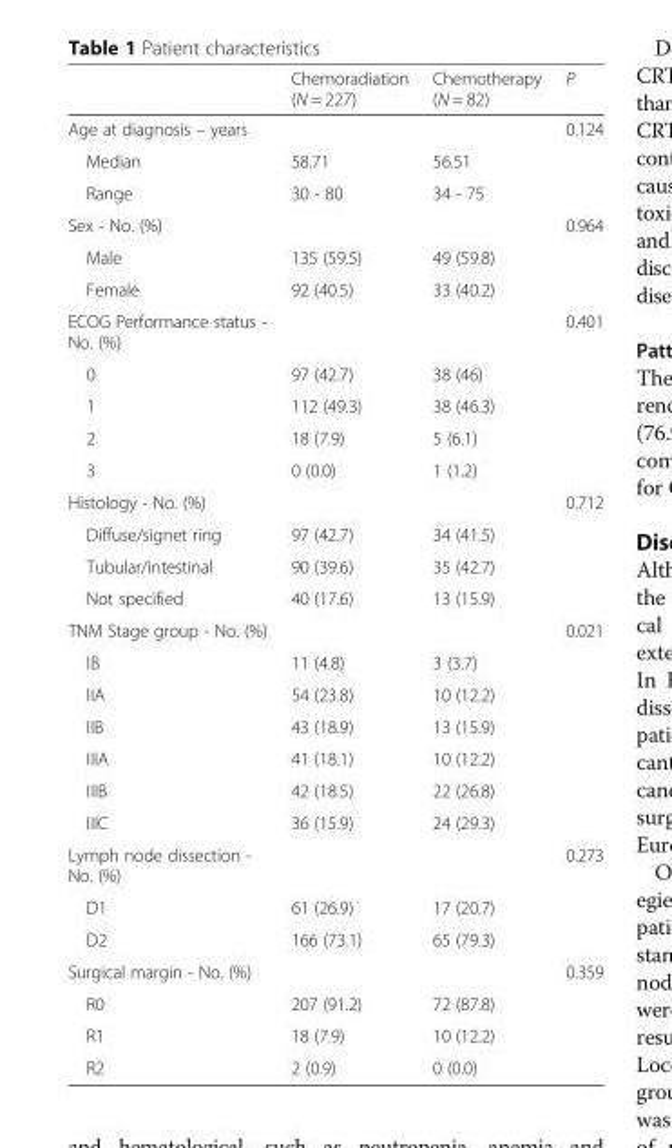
<table><thead><tr><td></td><td>Chemoradiation (N = 227)</td><td>Chemotherapy (N = 82)</td><td>P</td></tr></thead><tbody><tr><td>Age at diagnosis – years</td><td></td><td></td><td>0.124</td></tr><tr><td>Median</td><td>58.71</td><td>56.51</td><td></td></tr><tr><td>Range</td><td>30 - 80</td><td>34 - 75</td><td></td></tr><tr><td>Sex - No. (%)</td><td></td><td></td><td>0.964</td></tr><tr><td>Male</td><td>135 (59.5)</td><td>49 (59.8)</td><td></td></tr><tr><td>Female</td><td>92 (40.5)</td><td>33 (40.2)</td><td></td></tr><tr><td>ECOG Performance status - No. (%)</td><td></td><td></td><td>0.401</td></tr><tr><td>0</td><td>97 (42.7)</td><td>38 (46)</td><td></td></tr><tr><td>1</td><td>112 (49.3)</td><td>38 (46.3)</td><td></td></tr><tr><td>2</td><td>18 (7.9)</td><td>5 (6.1)</td><td></td></tr><tr><td>3</td><td>0 (0.0)</td><td>1 (1.2)</td><td></td></tr><tr><td>Histology - No. (%)</td><td></td><td></td><td>0.712</td></tr><tr><td>Diffuse/signet ring</td><td>97 (42.7)</td><td>34 (41.5)</td><td></td></tr><tr><td>Tubular/intestinal</td><td>90 (39.6)</td><td>35 (42.7)</td><td></td></tr><tr><td>Not specified</td><td>40 (17.6)</td><td>13 (15.9)</td><td></td></tr><tr><td>TNM Stage group - No. (%)</td><td></td><td></td><td>0.021</td></tr><tr><td>IB</td><td>11 (4.8)</td><td>3 (3.7)</td><td></td></tr><tr><td>IIA</td><td>54 (23.8)</td><td>10 (12.2)</td><td></td></tr><tr><td>IIB</td><td>43 (18.9)</td><td>13 (15.9)</td><td></td></tr><tr><td>IIIA</td><td>41 (18.1)</td><td>10 (12.2)</td><td></td></tr><tr><td>IIIB</td><td>42 (18.5)</td><td>22 (26.8)</td><td></td></tr><tr><td>IIIC</td><td>36 (15.9)</td><td>24 (29.3)</td><td></td></tr><tr><td>Lymph node dissection - No. (%)</td><td></td><td></td><td>0.273</td></tr><tr><td>D1</td><td>61 (26.9)</td><td>17 (20.7)</td><td></td></tr><tr><td>D2</td><td>166 (73.1)</td><td>65 (79.3)</td><td></td></tr><tr><td>Surgical margin - No. (%)</td><td></td><td></td><td>0.359</td></tr><tr><td>R0</td><td>207 (91.2)</td><td>72 (87.8)</td><td></td></tr><tr><td>R1</td><td>18 (7.9)</td><td>10 (12.2)</td><td></td></tr><tr><td>R2</td><td>2 (0.9)</td><td>0 (0.0)</td><td></td></tr></tbody></table>